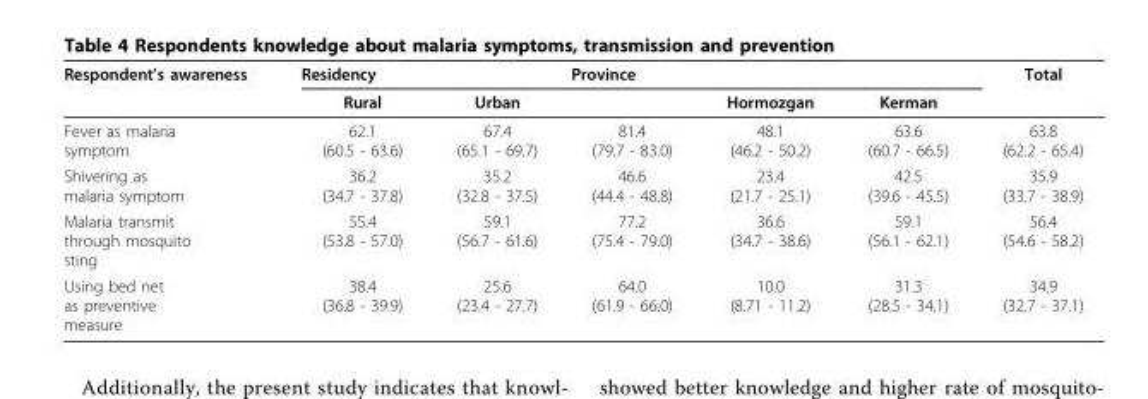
<table><thead><tr><td rowspan="2">Respondent’s awareness</td><td colspan="2">Residency</td><td colspan="3">Province</td><td rowspan="2">Total</td></tr><tr><td>Rural</td><td>Urban</td><td></td><td>Hormozgan</td><td>Kerman</td></tr></thead><tbody><tr><td>Fever as malaria symptom</td><td>62.1 (60.5 - 63.6)</td><td>67.4 (65.1 - 69.7)</td><td>81.4 (79.7 - 83.0)</td><td>48.1 (46.2 - 50.2)</td><td>63.6 (60.7 - 66.5)</td><td>63.8 (62.2 - 65.4)</td></tr><tr><td>Shivering as malaria symptom</td><td>36.2 (34.7 - 37.8)</td><td>35.2 (32.8 - 37.5)</td><td>46.6 (44.4 - 48.8)</td><td>23.4 (21.7 - 25.1)</td><td>42.5 (39.6 - 45.5)</td><td>35.9 (33.7 - 38.9)</td></tr><tr><td>Malaria transmit through mosquito sting</td><td>55.4 (53.8 - 57.0)</td><td>59.1 (56.7 - 61.6)</td><td>77.2 (75.4 - 79.0)</td><td>36.6 (34.7 - 38.6)</td><td>59.1 (56.1 - 62.1)</td><td>56.4 (54.6 - 58.2)</td></tr><tr><td>Using bed net as preventive measure</td><td>38.4 (36.8 - 39.9)</td><td>25.6 (23.4 - 27.7)</td><td>64.0 (61.9 - 66.0)</td><td>10.0 (8.71 - 11.2)</td><td>31.3 (28.5 - 34.1)</td><td>34.9 (32.7 - 37.1)</td></tr></tbody></table>